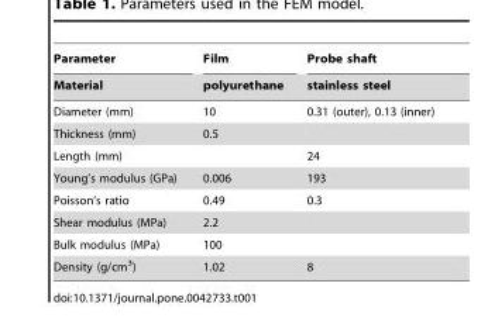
<table><thead><tr><td rowspan="2">Parameter Material</td><td rowspan="2">Film polyurethane</td><td rowspan="2">Probe shaft stainless steel</td></tr><tr></tr></thead><tbody><tr><td>Diameter (mm)</td><td>10</td><td>0.31 (outer), 0.13 (inner)</td></tr><tr><td>Thickness (mm)</td><td>0.5</td><td></td></tr><tr><td>Length (mm)</td><td></td><td>24</td></tr><tr><td>Young’s modulus (GPa)</td><td>0.006</td><td>193</td></tr><tr><td>Poisson’s ratio</td><td>0.49</td><td>0.3</td></tr><tr><td>Shear modulus (MPa)</td><td>2.2</td><td></td></tr><tr><td>Bulk modulus (MPa)</td><td>100</td><td></td></tr><tr><td>Density (g/cm<sup>3</sup>)</td><td>1.02</td><td>8</td></tr></tbody></table>